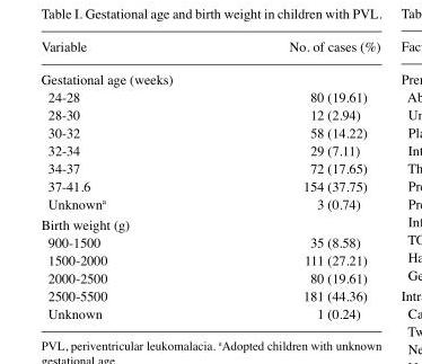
<table><thead><tr><td>Variable</td><td>No. of cases (%)</td></tr></thead><tbody><tr><td colspan="2">Gestational age (weeks)</td></tr><tr><td>24-28</td><td>80 (19.61)</td></tr><tr><td>28-30</td><td>12 (2.94)</td></tr><tr><td>30-32</td><td>58 (14.22)</td></tr><tr><td>32‑34</td><td>29 (7.11)</td></tr><tr><td>34‑37</td><td>72 (17.65)</td></tr><tr><td>37‑41.6</td><td>154 (37.75)</td></tr><tr><td>Unknown<sup>a</sup></td><td>3 (0.74)</td></tr><tr><td colspan="2">Birth weight (g)</td></tr><tr><td>900-1500</td><td>35 (8.58)</td></tr><tr><td>1500‑2000</td><td>111 (27.21)</td></tr><tr><td>2000-2500</td><td>80 (19.61)</td></tr><tr><td>2500-5500</td><td>181 (44.36)</td></tr><tr><td>Unknown</td><td>1 (0.24)</td></tr></tbody></table>